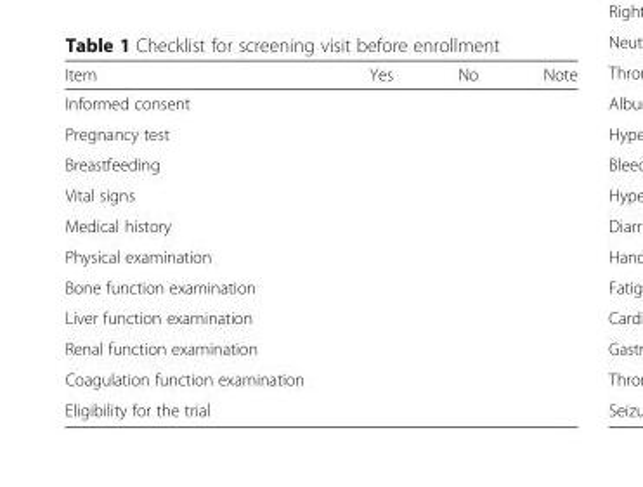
<table><thead><tr><td>Item</td><td>Yes</td><td>No</td><td>Note</td></tr></thead><tbody><tr><td colspan="4">Informed consent</td></tr><tr><td colspan="4">Pregnancy test</td></tr><tr><td colspan="4">Breastfeeding</td></tr><tr><td colspan="4">Vital signs</td></tr><tr><td colspan="4">Medical history</td></tr><tr><td colspan="4">Physical examination</td></tr><tr><td colspan="4">Bone function examination</td></tr><tr><td colspan="4">Liver function examination</td></tr><tr><td colspan="4">Renal function examination</td></tr><tr><td colspan="4">Coagulation function examination</td></tr><tr><td>Eligibility for the trial</td><td></td><td></td><td></td></tr></tbody></table>